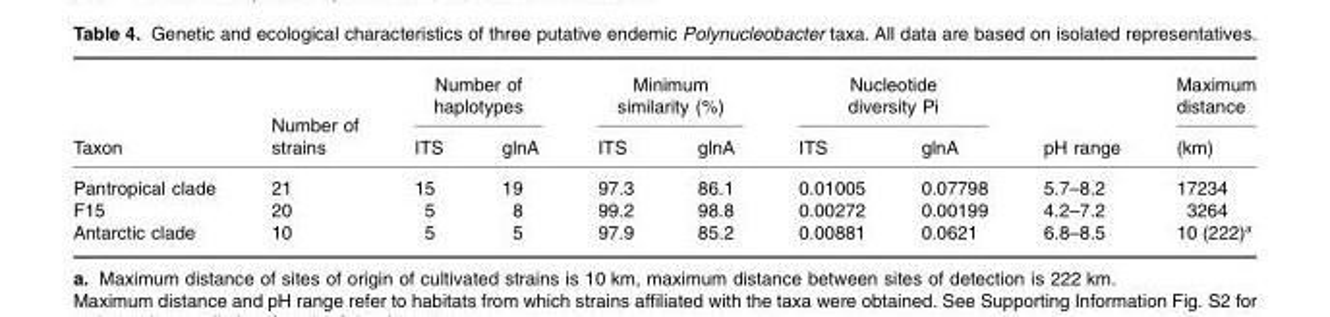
<table><thead><tr><td rowspan="2">Taxon</td><td rowspan="2">Number of strains</td><td colspan="2">Number of haplotypes</td><td colspan="2">Minimum similarity (%)</td><td colspan="2">Nucleotide diversity Pi</td><td rowspan="2">pH range</td><td rowspan="2">Maximum distance (km)</td></tr><tr><td>ITS</td><td>glnA</td><td>ITS</td><td>glnA</td><td>ITS</td><td>glnA</td></tr></thead><tbody><tr><td>Pantropical clade</td><td>21</td><td>15</td><td>19</td><td>97.3</td><td>86.1</td><td>0.01005</td><td>0.07798</td><td>5.7–8.2</td><td>17234</td></tr><tr><td>F15</td><td>20</td><td>5</td><td>8</td><td>99.2</td><td>98.8</td><td>0.00272</td><td>0.00199</td><td>4.2–7.2</td><td>3264</td></tr><tr><td>Antarctic clade</td><td>10</td><td>5</td><td>5</td><td>97.9</td><td>85.2</td><td>0.00881</td><td>0.0621</td><td>6.8–8.5</td><td>10 (222)<sup>a</sup></td></tr></tbody></table>